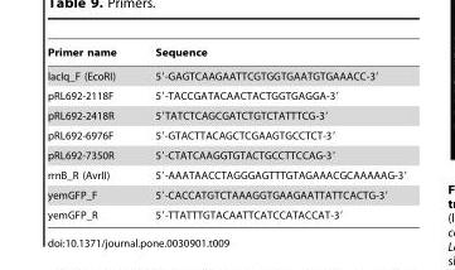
<table><thead><tr><td>Primer name</td><td>Sequence</td></tr></thead><tbody><tr><td>lacIq_F (EcoRI)</td><td>5′-GAGTCAAGAATTCGTGGTGAATGTGAAACC-3′</td></tr><tr><td>pRL692-2118F</td><td>5′-TACCGATACAACTACTGGTGAGGA-3′</td></tr><tr><td>pRL692-2418R</td><td>5′TATCTCAGCGATCTGTCTATTTCG-3′</td></tr><tr><td>pRL692-6976F</td><td>5′-GTACTTACAGCTCGAAGTGCCTCT-3′</td></tr><tr><td>pRL692-7350R</td><td>5′-CTATCAAGGTGTACTGCCTTCCAG-3′</td></tr><tr><td>rrnB_R (AvrII)</td><td>5′-AAATAACCTAGGGAGTTTGTAGAAACGCAAAAAG-3′</td></tr><tr><td>yemGFP_F</td><td>5′-CACCATGTCTAAAGGTGAAGAATTATTCACTG-3′</td></tr><tr><td>yemGFP_R</td><td>5′-TTATTTGTACAATTCATCCATACCAT-3′</td></tr></tbody></table>